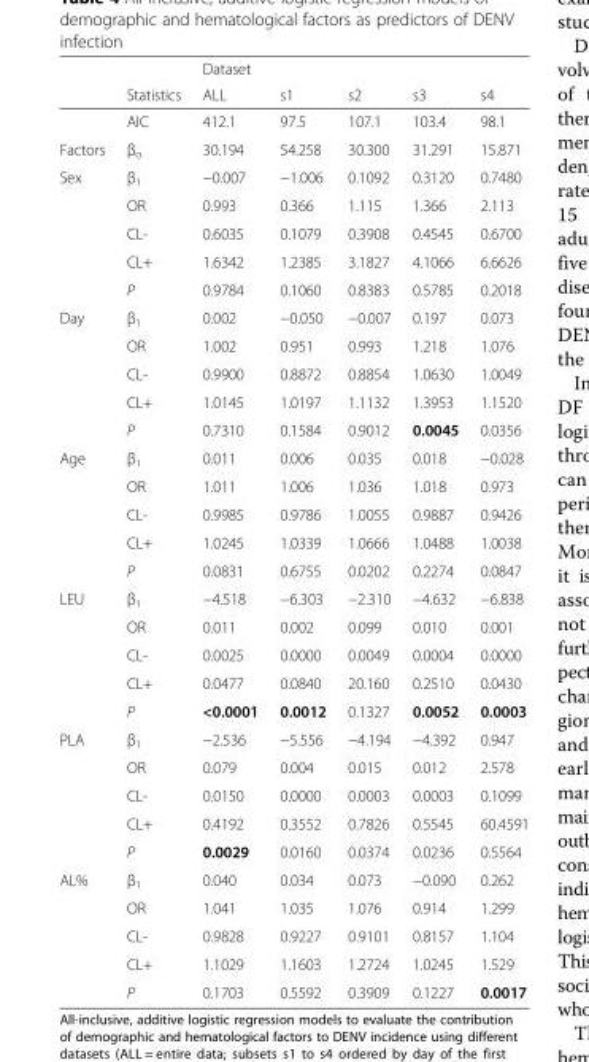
<table><thead><tr><td rowspan="2"></td><td rowspan="2">Statistics</td><td rowspan="2">Dataset ALL</td><td rowspan="2">s1</td><td rowspan="2">s2</td><td rowspan="2">s3</td><td rowspan="2">s4</td></tr><tr></tr></thead><tbody><tr><td></td><td>AIC</td><td>412.1</td><td>97.5</td><td>107.1</td><td>103.4</td><td>98.1</td></tr><tr><td>Factors</td><td>β<sub>o</sub></td><td>30.194</td><td>54.258</td><td>30.300</td><td>31.291</td><td>15.871</td></tr><tr><td rowspan="5">Sex</td><td>β<sub>1</sub></td><td>−0.007</td><td>−1.006</td><td>0.1092</td><td>0.3120</td><td>0.7480</td></tr><tr><td>OR</td><td>0.993</td><td>0.366</td><td>1.115</td><td>1.366</td><td>2.113</td></tr><tr><td>CL-</td><td>0.6035</td><td>0.1079</td><td>0.3908</td><td>0.4545</td><td>0.6700</td></tr><tr><td>CL+</td><td>1.6342</td><td>1.2385</td><td>3.1827</td><td>4.1066</td><td>6.6626</td></tr><tr><td>P</td><td>0.9784</td><td>0.1060</td><td>0.8383</td><td>0.5785</td><td>0.2018</td></tr><tr><td rowspan="5">Day</td><td>β<sub>1</sub></td><td>0.002</td><td>−0.050</td><td>−0.007</td><td>0.197</td><td>0.073</td></tr><tr><td>OR</td><td>1.002</td><td>0.951</td><td>0.993</td><td>1.218</td><td>1.076</td></tr><tr><td>CL-</td><td>0.9900</td><td>0.8872</td><td>0.8854</td><td>1.0630</td><td>1.0049</td></tr><tr><td>CL+</td><td>1.0145</td><td>1.0197</td><td>1.1132</td><td>1.3953</td><td>1.1520</td></tr><tr><td>P</td><td>0.7310</td><td>0.1584</td><td>0.9012</td><td>0.0045</td><td>0.0356</td></tr><tr><td rowspan="5">Age</td><td>β<sub>1</sub></td><td>0.011</td><td>0.006</td><td>0.035</td><td>0.018</td><td>−0.028</td></tr><tr><td>OR</td><td>1.011</td><td>1.006</td><td>1.036</td><td>1.018</td><td>0.973</td></tr><tr><td>CL-</td><td>0.9985</td><td>0.9786</td><td>1.0055</td><td>0.9887</td><td>0.9426</td></tr><tr><td>CL+</td><td>1.0245</td><td>1.0339</td><td>1.0666</td><td>1.0488</td><td>1.0038</td></tr><tr><td>P</td><td>0.0831</td><td>0.6755</td><td>0.0202</td><td>0.2274</td><td>0.0847</td></tr><tr><td rowspan="5">LEU</td><td>β<sub>1</sub></td><td>−4.518</td><td>−6.303</td><td>−2.310</td><td>−4.632</td><td>−6.838</td></tr><tr><td>OR</td><td>0.011</td><td>0.002</td><td>0.099</td><td>0.010</td><td>0.001</td></tr><tr><td>CL-</td><td>0.0025</td><td>0.0000</td><td>0.0049</td><td>0.0004</td><td>0.0000</td></tr><tr><td>CL+</td><td>0.0477</td><td>0.0840</td><td>20.160</td><td>0.2510</td><td>0.0430</td></tr><tr><td>P</td><td>&lt;0.0001</td><td>0.0012</td><td>0.1327</td><td>0.0052</td><td>0.0003</td></tr><tr><td rowspan="5">PLA</td><td>β<sub>1</sub></td><td>−2.536</td><td>−5.556</td><td>−4.194</td><td>−4.392</td><td>0.947</td></tr><tr><td>OR</td><td>0.079</td><td>0.004</td><td>0.015</td><td>0.012</td><td>2.578</td></tr><tr><td>CL-</td><td>0.0150</td><td>0.0000</td><td>0.0003</td><td>0.0003</td><td>0.1099</td></tr><tr><td>CL+</td><td>0.4192</td><td>0.3552</td><td>0.7826</td><td>0.5545</td><td>60.4591</td></tr><tr><td>P</td><td>0.0029</td><td>0.0160</td><td>0.0374</td><td>0.0236</td><td>0.5564</td></tr><tr><td rowspan="5">AL%</td><td>β<sub>1</sub></td><td>0.040</td><td>0.034</td><td>0.073</td><td>−0.090</td><td>0.262</td></tr><tr><td>OR</td><td>1.041</td><td>1.035</td><td>1.076</td><td>0.914</td><td>1.299</td></tr><tr><td>CL-</td><td>0.9828</td><td>0.9227</td><td>0.9101</td><td>0.8157</td><td>1.104</td></tr><tr><td>CL+</td><td>1.1029</td><td>1.1603</td><td>1.2724</td><td>1.0245</td><td>1.529</td></tr><tr><td>P</td><td>0.1703</td><td>0.5592</td><td>0.3909</td><td>0.1227</td><td>0.0017</td></tr></tbody></table>